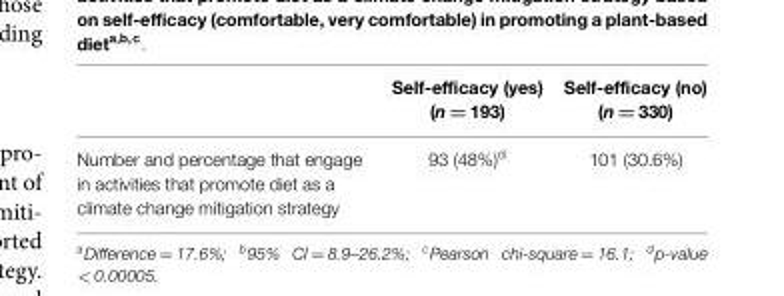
<table><thead><tr><td></td><td>Self-efficacy (yes) (n = 193)</td><td>Self-efficacy (no) (n = 330)</td></tr></thead><tbody><tr><td>Number and percentage that engage in activities that promote diet as a climate change mitigation strategy</td><td>93 (48%)<sup>d</sup></td><td>101 (30.6%)</td></tr></tbody></table>